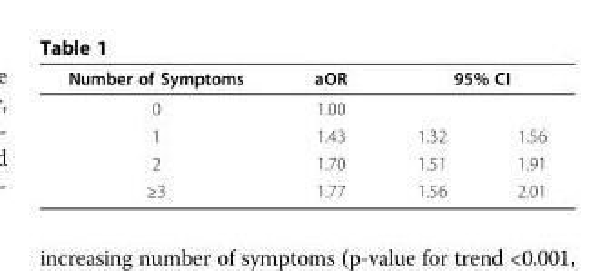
<table><thead><tr><td rowspan="2">Number of Symptoms 0</td><td rowspan="2">aOR 1.00</td><td colspan="2">95% CI</td></tr><tr><td></td><td></td></tr></thead><tbody><tr><td>1</td><td>1.43</td><td>1.32</td><td>1.56</td></tr><tr><td>2</td><td>1.70</td><td>1.51</td><td>1.91</td></tr><tr><td>≥3</td><td>1.77</td><td>1.56</td><td>2.01</td></tr></tbody></table>